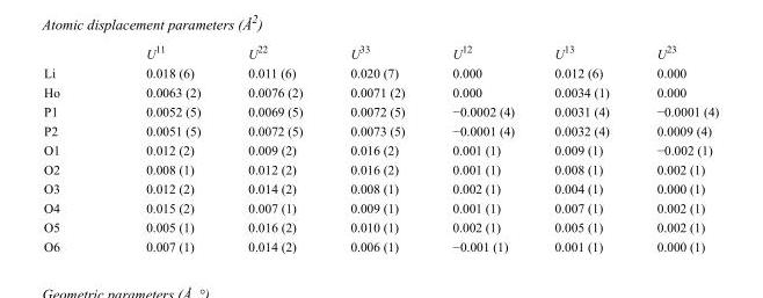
<table><thead><tr><td></td><td>U<sup>11</sup></td><td>U<sup>22</sup></td><td>U<sup>33</sup></td><td>U<sup>12</sup></td><td>U<sup>13</sup></td><td>U<sup>23</sup></td></tr></thead><tbody><tr><td>Li</td><td>0.018 (6)</td><td>0.011 (6)</td><td>0.020 (7)</td><td>0.000</td><td>0.012 (6)</td><td>0.000</td></tr><tr><td>Ho</td><td>0.0063 (2)</td><td>0.0076 (2)</td><td>0.0071 (2)</td><td>0.000</td><td>0.0034 (1)</td><td>0.000</td></tr><tr><td>P1</td><td>0.0052 (5)</td><td>0.0069 (5)</td><td>0.0072 (5)</td><td>−0.0002 (4)</td><td>0.0031 (4)</td><td>−0.0001 (4)</td></tr><tr><td>P2</td><td>0.0051 (5)</td><td>0.0072 (5)</td><td>0.0073 (5)</td><td>−0.0001 (4)</td><td>0.0032 (4)</td><td>0.0009 (4)</td></tr><tr><td>O1</td><td>0.012 (2)</td><td>0.009 (2)</td><td>0.016 (2)</td><td>0.001 (1)</td><td>0.009 (1)</td><td>−0.002 (1)</td></tr><tr><td>O2</td><td>0.008 (1)</td><td>0.012 (2)</td><td>0.016 (2)</td><td>0.001 (1)</td><td>0.008 (1)</td><td>0.002 (1)</td></tr><tr><td>O3</td><td>0.012 (2)</td><td>0.014 (2)</td><td>0.008 (1)</td><td>0.002 (1)</td><td>0.004 (1)</td><td>0.000 (1)</td></tr><tr><td>O4</td><td>0.015 (2)</td><td>0.007 (1)</td><td>0.009 (1)</td><td>0.001 (1)</td><td>0.007 (1)</td><td>0.002 (1)</td></tr><tr><td>O5</td><td>0.005 (1)</td><td>0.016 (2)</td><td>0.010 (1)</td><td>0.002 (1)</td><td>0.005 (1)</td><td>0.002 (1)</td></tr><tr><td>O6</td><td>0.007 (1)</td><td>0.014 (2)</td><td>0.006 (1)</td><td>−0.001 (1)</td><td>0.001 (1)</td><td>0.000 (1)</td></tr></tbody></table>